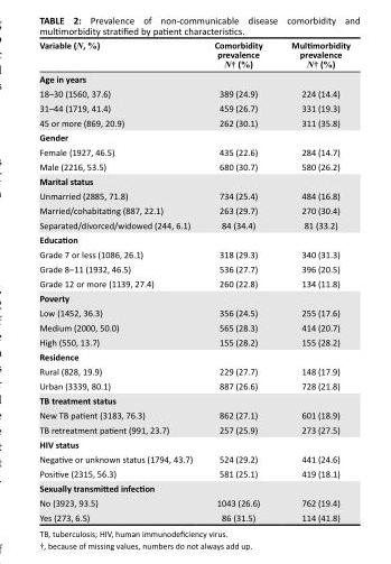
<table><thead><tr><td>Variable (N, %)</td><td>Comorbidity prevalence N† (%)</td><td>Multimorbidity prevalence N† (%)</td></tr></thead><tbody><tr><td>Age in years 18–30 (1560, 37.6) 31–44 (1719, 41.4) 45 or more (869, 20.9)</td><td>389 (24.9) 459 (26.7) 262 (30.1)</td><td>224 (14.4) 331 (19.3) 311 (35.8)</td></tr><tr><td>Gender Female (1927, 46.5) Male (2216, 53.5)</td><td>435 (22.6) 680 (30.7)</td><td>284 (14.7) 580 (26.2)</td></tr><tr><td>Marital status Unmarried (2885, 71.8) Married/cohabitating (887, 22.1) Separated/divorced/widowed (244, 6.1)</td><td>734 (25.4) 263 (29.7) 84 (34.4)</td><td>484 (16.8) 270 (30.4) 81 (33.2)</td></tr><tr><td>Education Grade 7 or less (1086, 26.1) Grade 8–11 (1932, 46.5) Grade 12 or more (1139, 27.4)</td><td>318 (29.3) 536 (27.7) 260 (22.8)</td><td>340 (31.3) 396 (20.5) 134 (11.8)</td></tr><tr><td>Poverty Low (1452, 36.3) Medium (2000, 50.0) High (550, 13.7)</td><td>356 (24.5) 565 (28.3) 155 (28.2)</td><td>255 (17.6) 414 (20.7) 155 (28.2)</td></tr><tr><td>Residence Rural (828, 19.9) Urban (3339, 80.1)</td><td>229 (27.7) 887 (26.6)</td><td>148 (17.9) 728 (21.8)</td></tr><tr><td>TB treatment status New TB patient (3183, 76.3) TB retreatment patient (991, 23.7)</td><td>862 (27.1) 257 (25.9)</td><td>601 (18.9) 273 (27.5)</td></tr><tr><td>HIV status Negative or unknown status (1794, 43.7) Positive (2315, 56.3)</td><td>524 (29.2) 581 (25.1)</td><td>441 (24.6) 419 (18.1)</td></tr><tr><td>Sexually transmitted infection No (3923, 93.5) Yes (273, 6.5)</td><td>1043 (26.6) 86 (31.5)</td><td>762 (19.4) 114 (41.8)</td></tr></tbody></table>